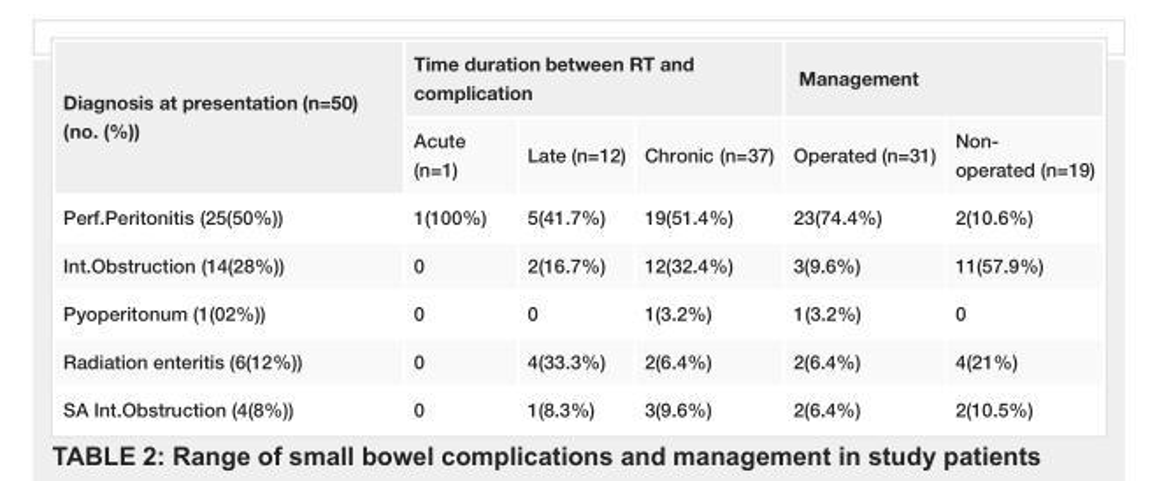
<table><tbody><tr><td rowspan="2">Diagnosis at presentation (n=50) (no. (%))</td><td colspan="3">Time duration between RT and complication</td><td colspan="2">Management</td></tr><tr><td>Acute (n=1)</td><td>Late (n=12)</td><td>Chronic (n=37)</td><td>Operated (n=31)</td><td>Non- operated (n=19)</td></tr><tr><td>Perf.Peritonitis (25(50%))</td><td>1(100%)</td><td>5(41.7%)</td><td>19(51.4%)</td><td>23(74.4%)</td><td>2(10.6%)</td></tr><tr><td>Int.Obstruction (14(28%))</td><td>0</td><td>2(16.7%)</td><td>12(32.4%)</td><td>3(9.6%)</td><td>11(57.9%)</td></tr><tr><td>Pyoperitonum (1(02%))</td><td>0</td><td>0</td><td>1(3.2%)</td><td>1(3.2%)</td><td>0</td></tr><tr><td>Radiation enteritis (6(12%))</td><td>0</td><td>4(33.3%)</td><td>2(6.4%)</td><td>2(6.4%)</td><td>4(21%)</td></tr><tr><td>SA Int.Obstruction (4(8%))</td><td>0</td><td>1(8.3%)</td><td>3(9.6%)</td><td>2(6.4%)</td><td>2(10.5%)</td></tr></tbody></table>